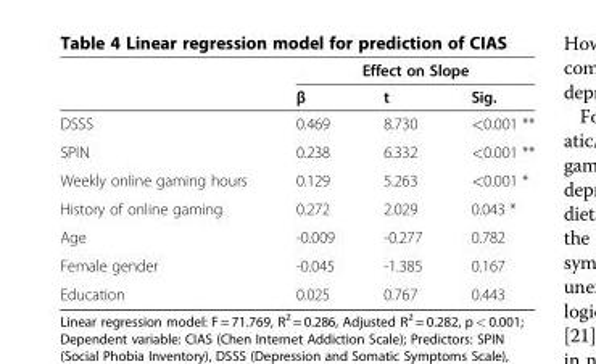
<table><thead><tr><td rowspan="2"></td><td colspan="3">Effect on Slope</td></tr><tr><td>β</td><td>t</td><td>Sig.</td></tr></thead><tbody><tr><td>DSSS</td><td>0.469</td><td>8.730</td><td>&lt;0.001 **</td></tr><tr><td>SPIN</td><td>0.238</td><td>6.332</td><td>&lt;0.001 **</td></tr><tr><td>Weekly online gaming hours</td><td>0.129</td><td>5.263</td><td>&lt;0.001 *</td></tr><tr><td>History of online gaming</td><td>0.272</td><td>2.029</td><td>0.043 *</td></tr><tr><td>Age</td><td>-0.009</td><td>-0.277</td><td>0.782</td></tr><tr><td>Female gender</td><td>-0.045</td><td>-1.385</td><td>0.167</td></tr><tr><td>Education</td><td>0.025</td><td>0.767</td><td>0.443</td></tr></tbody></table>